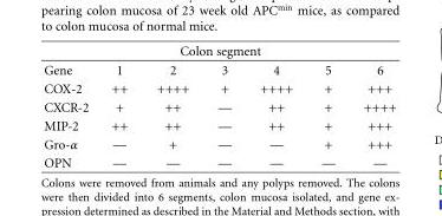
<table><thead><tr><td colspan="7">Colon segment</td></tr><tr><td>Gene</td><td>1</td><td>2</td><td>3</td><td>4</td><td>5</td><td>6</td></tr></thead><tbody><tr><td>COX-2</td><td>++</td><td>++++</td><td>+</td><td>++++</td><td>+</td><td>+++</td></tr><tr><td>CXCR-2</td><td>+</td><td>++</td><td>—</td><td>++</td><td>+</td><td>++++</td></tr><tr><td>MIP-2</td><td>++</td><td>++</td><td>—</td><td>++</td><td>+</td><td>+++</td></tr><tr><td>Gro-α</td><td>—</td><td>+</td><td>—</td><td>—</td><td>+</td><td>+++</td></tr><tr><td>OPN</td><td>—</td><td>—</td><td>—</td><td>—</td><td>—</td><td>—</td></tr></tbody></table>